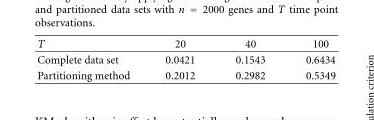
<table><thead><tr><td>T</td><td>20</td><td>40</td><td>100</td></tr></thead><tbody><tr><td>Complete data set</td><td>0.0421</td><td>0.1543</td><td>0.6434</td></tr><tr><td>Partitioning method</td><td>0.2012</td><td>0.2982</td><td>0.5349</td></tr></tbody></table>